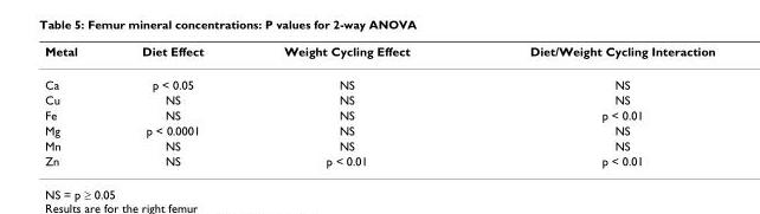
<table><thead><tr><td>Metal</td><td>Diet Effect</td><td>Weight Cycling Effect</td><td>Diet/Weight Cycling Interaction</td></tr></thead><tbody><tr><td>Ca</td><td>p &lt; 0.05</td><td>NS</td><td>NS</td></tr><tr><td>Cu</td><td>NS</td><td>NS</td><td>NS</td></tr><tr><td>Fe</td><td>NS</td><td>NS</td><td>p &lt; 0.01</td></tr><tr><td>Mg</td><td>p &lt; 0.0001</td><td>NS</td><td>NS</td></tr><tr><td>Mn</td><td>NS</td><td>NS</td><td>NS</td></tr><tr><td>Zn</td><td>NS</td><td>p &lt; 0.01</td><td>p &lt; 0.01</td></tr></tbody></table>